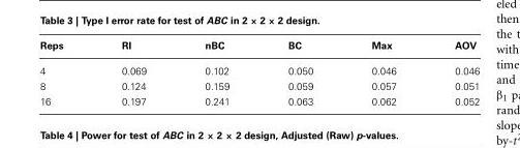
<table><thead><tr><td>Reps</td><td>RI</td><td>nBC</td><td>BC</td><td>Max</td><td>AOV</td></tr></thead><tbody><tr><td>4</td><td>0.069</td><td>0.102</td><td>0.050</td><td>0.046</td><td>0.046</td></tr><tr><td>8</td><td>0.124</td><td>0.159</td><td>0.059</td><td>0.057</td><td>0.051</td></tr><tr><td>16</td><td>0.197</td><td>0.241</td><td>0.063</td><td>0.062</td><td>0.052</td></tr></tbody></table>